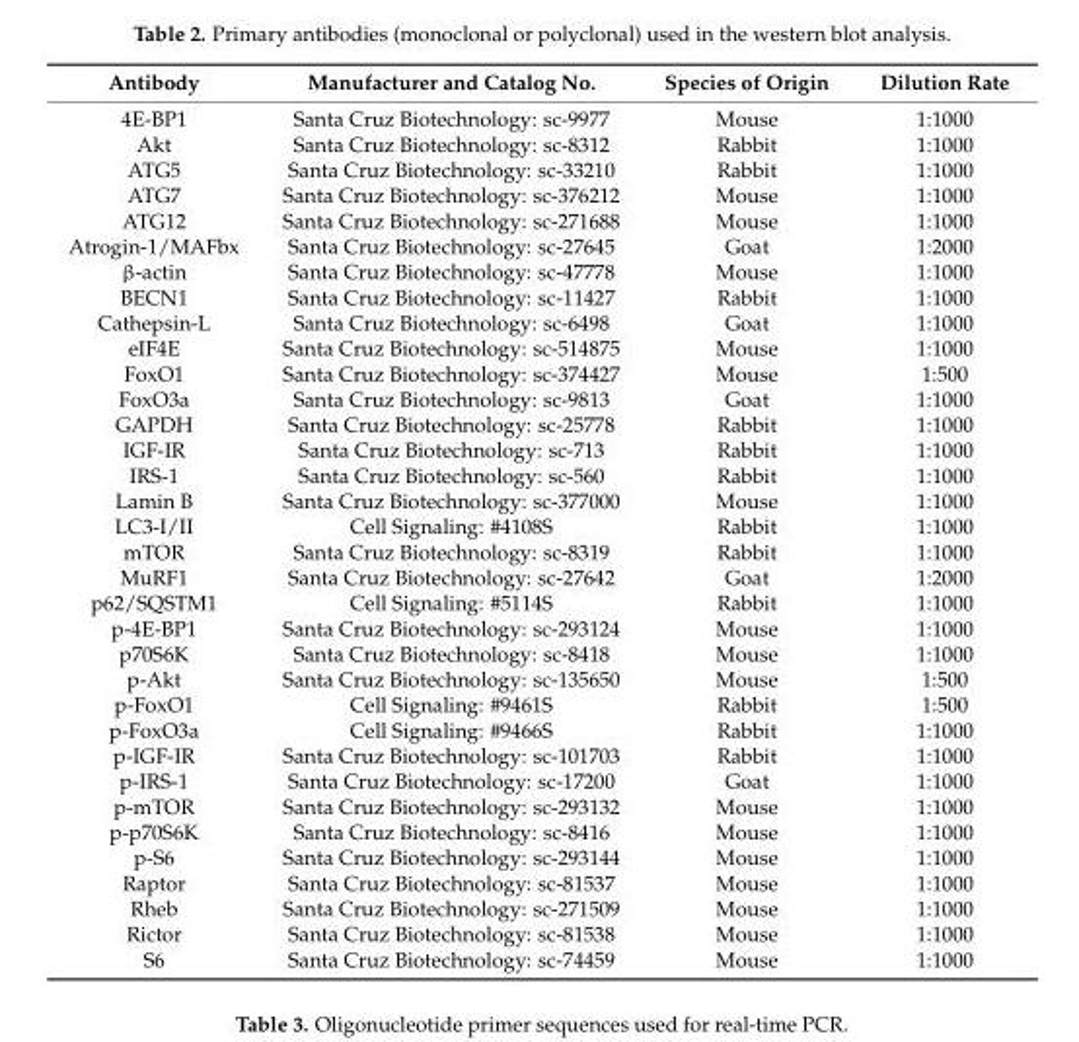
<table><thead><tr><td>Antibody</td><td>Manufacturer and Catalog No.</td><td>Species of Origin</td><td>Dilution Rate</td></tr></thead><tbody><tr><td>4E-BP1</td><td>Santa Cruz Biotechnology: sc-9977</td><td>Mouse</td><td>1:1000</td></tr><tr><td>Akt</td><td>Santa Cruz Biotechnology: sc-8312</td><td>Rabbit</td><td>1:1000</td></tr><tr><td>ATG5</td><td>Santa Cruz Biotechnology: sc-33210</td><td>Rabbit</td><td>1:1000</td></tr><tr><td>ATG7</td><td>Santa Cruz Biotechnology: sc-376212</td><td>Mouse</td><td>1:1000</td></tr><tr><td>ATG12</td><td>Santa Cruz Biotechnology: sc-271688</td><td>Mouse</td><td>1:1000</td></tr><tr><td>Atrogin-1/MAFbx</td><td>Santa Cruz Biotechnology: sc-27645</td><td>Goat</td><td>1:2000</td></tr><tr><td>β-actin</td><td>Santa Cruz Biotechnology: sc-47778</td><td>Mouse</td><td>1:1000</td></tr><tr><td>BECN1</td><td>Santa Cruz Biotechnology: sc-11427</td><td>Rabbit</td><td>1:1000</td></tr><tr><td>Cathepsin-L</td><td>Santa Cruz Biotechnology: sc-6498</td><td>Goat</td><td>1:1000</td></tr><tr><td>eIF4E</td><td>Santa Cruz Biotechnology: sc-514875</td><td>Mouse</td><td>1:1000</td></tr><tr><td>FoxO1</td><td>Santa Cruz Biotechnology: sc-374427</td><td>Mouse</td><td>1:500</td></tr><tr><td>FoxO3a</td><td>Santa Cruz Biotechnology: sc-9813</td><td>Goat</td><td>1:1000</td></tr><tr><td>GAPDH</td><td>Santa Cruz Biotechnology: sc-25778</td><td>Rabbit</td><td>1:1000</td></tr><tr><td>IGF-IR</td><td>Santa Cruz Biotechnology: sc-713</td><td>Rabbit</td><td>1:1000</td></tr><tr><td>IRS-1</td><td>Santa Cruz Biotechnology: sc-560</td><td>Rabbit</td><td>1:1000</td></tr><tr><td>Lamin B</td><td>Santa Cruz Biotechnology: sc-377000</td><td>Mouse</td><td>1:1000</td></tr><tr><td>LC3-I/II</td><td>Cell Signaling: #4108S</td><td>Rabbit</td><td>1:1000</td></tr><tr><td>mTOR</td><td>Santa Cruz Biotechnology: sc-8319</td><td>Rabbit</td><td>1:1000</td></tr><tr><td>MuRF1</td><td>Santa Cruz Biotechnology: sc-27642</td><td>Goat</td><td>1:2000</td></tr><tr><td>p62/SQSTM1</td><td>Cell Signaling: #5114S</td><td>Rabbit</td><td>1:1000</td></tr><tr><td>p-4E-BP1</td><td>Santa Cruz Biotechnology: sc-293124</td><td>Mouse</td><td>1:1000</td></tr><tr><td>p70S6K</td><td>Santa Cruz Biotechnology: sc-8418</td><td>Mouse</td><td>1:1000</td></tr><tr><td>p-Akt</td><td>Santa Cruz Biotechnology: sc-135650</td><td>Mouse</td><td>1:500</td></tr><tr><td>p-FoxO1</td><td>Cell Signaling: #9461S</td><td>Rabbit</td><td>1:500</td></tr><tr><td>p-FoxO3a</td><td>Cell Signaling: #9466S</td><td>Rabbit</td><td>1:1000</td></tr><tr><td>p-IGF-IR</td><td>Santa Cruz Biotechnology: sc-101703</td><td>Rabbit</td><td>1:1000</td></tr><tr><td>p-IRS-1</td><td>Santa Cruz Biotechnology: sc-17200</td><td>Goat</td><td>1:1000</td></tr><tr><td>p-mTOR</td><td>Santa Cruz Biotechnology: sc-293132</td><td>Mouse</td><td>1:1000</td></tr><tr><td>p-p70S6K</td><td>Santa Cruz Biotechnology: sc-8416</td><td>Mouse</td><td>1:1000</td></tr><tr><td>p-S6</td><td>Santa Cruz Biotechnology: sc-293144</td><td>Mouse</td><td>1:1000</td></tr><tr><td>Raptor</td><td>Santa Cruz Biotechnology: sc-81537</td><td>Mouse</td><td>1:1000</td></tr><tr><td>Rheb</td><td>Santa Cruz Biotechnology: sc-271509</td><td>Mouse</td><td>1:1000</td></tr><tr><td>Rictor</td><td>Santa Cruz Biotechnology: sc-81538</td><td>Mouse</td><td>1:1000</td></tr><tr><td>S6</td><td>Santa Cruz Biotechnology: sc-74459</td><td>Mouse</td><td>1:1000</td></tr></tbody></table>